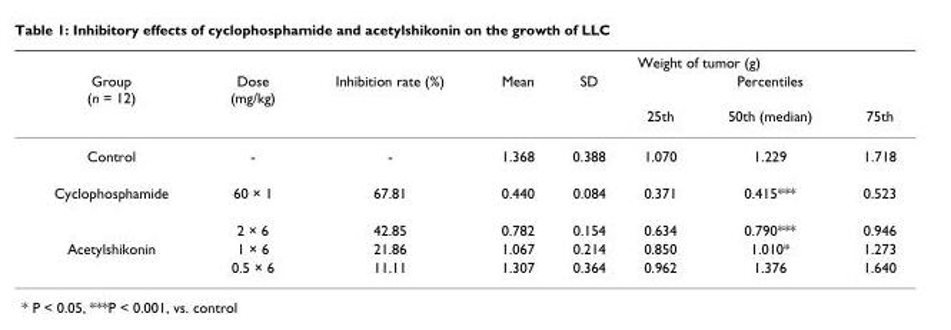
<table><thead><tr><td rowspan="3">Group (n = 12)</td><td rowspan="3">Dose (mg/kg)</td><td rowspan="3">Inhibition rate (%)</td><td colspan="5">Weight of tumor (g)</td></tr><tr><td rowspan="2">Mean</td><td rowspan="2">SD</td><td colspan="3">Percentiles</td></tr><tr><td>25th</td><td>50th (median)</td><td>75th</td></tr></thead><tbody><tr><td>Control</td><td>-</td><td>-</td><td>1.368</td><td>0.388</td><td>1.070</td><td>1.229</td><td>1.718</td></tr><tr><td rowspan="2">Cyclophosphamide</td><td>60 × 1</td><td>67.81</td><td>0.440</td><td>0.084</td><td>0.371</td><td>0.415***</td><td>0.523</td></tr><tr><td>2 × 6</td><td>42.85</td><td>0.782</td><td>0.154</td><td>0.634</td><td>0.790***</td><td>0.946</td></tr><tr><td rowspan="2">Acetylshikonin</td><td>1 × 6</td><td>21.86</td><td>1.067</td><td>0.214</td><td>0.850</td><td>1.010*</td><td>1.273</td></tr><tr><td>0.5 × 6</td><td>11.11</td><td>1.307</td><td>0.364</td><td>0.962</td><td>1.376</td><td>1.640</td></tr></tbody></table>